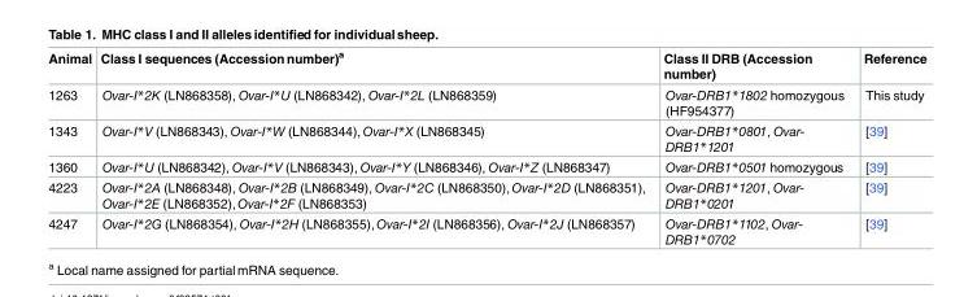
<table><thead><tr><td>Animal</td><td>Class I sequences (Accession number)<sup>a</sup></td><td>Class II DRB (Accession number)</td><td>Reference</td></tr></thead><tbody><tr><td>1263</td><td>Ovar-I*2K (LN868358), Ovar-I*U (LN868342), Ovar-I*2L (LN868359)</td><td>Ovar-DRB1*1802 homozygous (HF954377)</td><td>This study</td></tr><tr><td>1343</td><td>Ovar-I*V (LN868343), Ovar-I*W (LN868344), Ovar-I*X (LN868345)</td><td>Ovar-DRB1*0801, Ovar- DRB1*1201</td><td>[39]</td></tr><tr><td>1360</td><td>Ovar-I*U (LN868342), Ovar-I*V (LN868343), Ovar-I*Y (LN868346), Ovar-I*Z (LN868347)</td><td>Ovar-DRB1*0501 homozygous</td><td>[39]</td></tr><tr><td>4223</td><td>Ovar-I*2A (LN868348), Ovar-I*2B (LN868349), Ovar-I*2C (LN868350), Ovar-I*2D (LN868351), Ovar-I*2E (LN868352), Ovar-I*2F (LN868353)</td><td>Ovar-DRB1*1201, Ovar- DRB1*0201</td><td>[39]</td></tr><tr><td>4247</td><td>Ovar-I*2G (LN868354), Ovar-I*2H (LN868355), Ovar-I*2I (LN868356), Ovar-I*2J (LN868357)</td><td>Ovar-DRB1*1102, Ovar- DRB1*0702</td><td>[39]</td></tr></tbody></table>